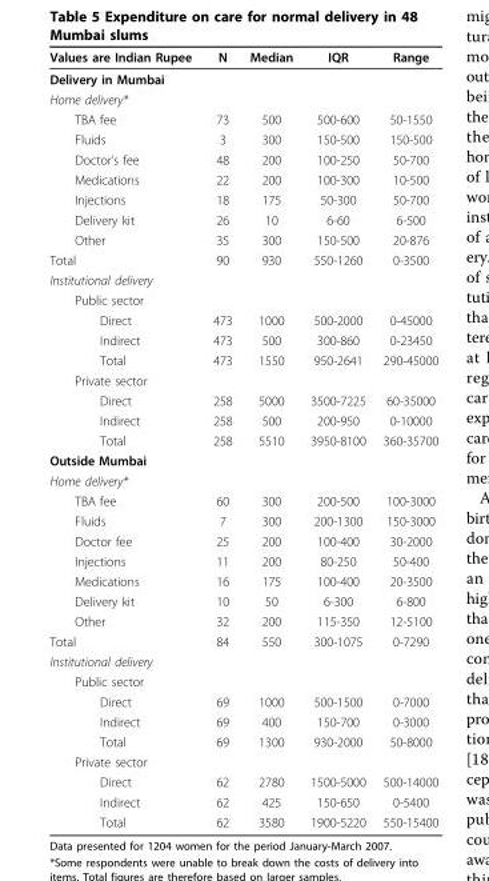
<table><thead><tr><td>Values are Indian Rupee</td><td>N</td><td>Median</td><td>IQR</td><td>Range</td></tr></thead><tbody><tr><td colspan="5">Delivery in Mumbai</td></tr><tr><td colspan="5">Home delivery*</td></tr><tr><td>TBA fee</td><td>73</td><td>500</td><td>500-600</td><td>50-1550</td></tr><tr><td>Fluids</td><td>3</td><td>300</td><td>150-500</td><td>150-500</td></tr><tr><td>Doctor’s fee</td><td>48</td><td>200</td><td>100-250</td><td>50-700</td></tr><tr><td>Medications</td><td>22</td><td>200</td><td>100-300</td><td>10-500</td></tr><tr><td>Injections</td><td>18</td><td>175</td><td>50-300</td><td>50-700</td></tr><tr><td>Delivery kit</td><td>26</td><td>10</td><td>6-60</td><td>6-500</td></tr><tr><td>Other</td><td>35</td><td>300</td><td>150-500</td><td>20-876</td></tr><tr><td>Total</td><td>90</td><td>930</td><td>550-1260</td><td>0-3500</td></tr><tr><td colspan="5">Institutional delivery</td></tr><tr><td colspan="5">Public sector</td></tr><tr><td>Direct</td><td>473</td><td>1000</td><td>500-2000</td><td>0-45000</td></tr><tr><td>Indirect</td><td>473</td><td>500</td><td>300-860</td><td>0-23450</td></tr><tr><td>Total</td><td>473</td><td>1550</td><td>950-2641</td><td>290-45000</td></tr><tr><td colspan="5">Private sector</td></tr><tr><td>Direct</td><td>258</td><td>5000</td><td>3500-7225</td><td>60-35000</td></tr><tr><td>Indirect</td><td>258</td><td>500</td><td>200-950</td><td>0-10000</td></tr><tr><td>Total</td><td>258</td><td>5510</td><td>3950-8100</td><td>360-35700</td></tr><tr><td colspan="5">Outside Mumbai</td></tr><tr><td colspan="5">Home delivery*</td></tr><tr><td>TBA fee</td><td>60</td><td>300</td><td>200-500</td><td>100-3000</td></tr><tr><td>Fluids</td><td>7</td><td>300</td><td>200-1300</td><td>150-3000</td></tr><tr><td>Doctor fee</td><td>25</td><td>200</td><td>100-400</td><td>30-2000</td></tr><tr><td>Injections</td><td>11</td><td>200</td><td>80-250</td><td>50-400</td></tr><tr><td>Medications</td><td>16</td><td>175</td><td>100-400</td><td>20-3500</td></tr><tr><td>Delivery kit</td><td>10</td><td>50</td><td>6-300</td><td>6-800</td></tr><tr><td>Other</td><td>32</td><td>200</td><td>115-350</td><td>12-5100</td></tr><tr><td>Total</td><td>84</td><td>550</td><td>300-1075</td><td>0-7290</td></tr><tr><td colspan="5">Institutional delivery</td></tr><tr><td colspan="5">Public sector</td></tr><tr><td>Direct</td><td>69</td><td>1000</td><td>500-1500</td><td>0-7000</td></tr><tr><td>Indirect</td><td>69</td><td>400</td><td>150-700</td><td>0-3000</td></tr><tr><td>Total</td><td>69</td><td>1300</td><td>930-2000</td><td>50-8000</td></tr><tr><td colspan="5">Private sector</td></tr><tr><td>Direct</td><td>62</td><td>2780</td><td>1500-5000</td><td>500-14000</td></tr><tr><td>Indirect</td><td>62</td><td>425</td><td>150-650</td><td>0-5400</td></tr><tr><td>Total</td><td>62</td><td>3580</td><td>1900-5220</td><td>550-15400</td></tr></tbody></table>